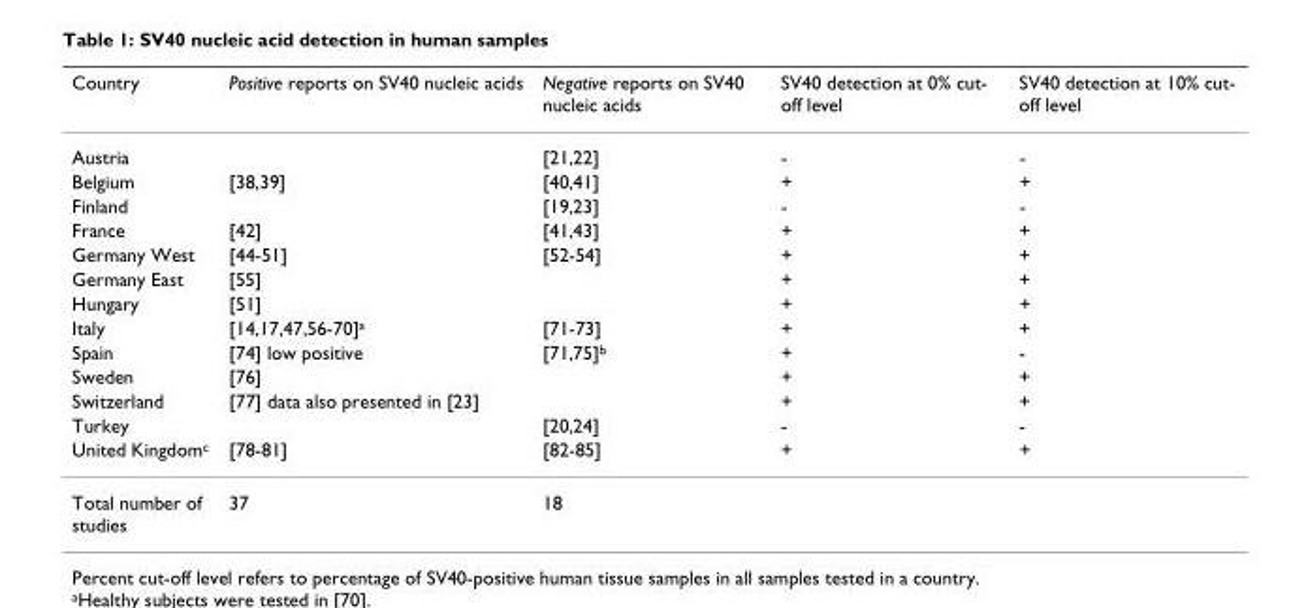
<table><thead><tr><td>Country</td><td>Positive reports on SV40 nucleic acids</td><td>Negative reports on SV40 nucleic acids</td><td>SV40 detection at 0% cut- off level</td><td>SV40 detection at 10% cut- off level</td></tr></thead><tbody><tr><td>Austria</td><td></td><td>[21,22]</td><td>-</td><td>-</td></tr><tr><td>Belgium</td><td>[38,39]</td><td>[40,41]</td><td>+</td><td>+</td></tr><tr><td>Finland</td><td></td><td>[19,23]</td><td>-</td><td>-</td></tr><tr><td>France</td><td>[42]</td><td>[41,43]</td><td>+</td><td>+</td></tr><tr><td>Germany West</td><td>[44-51]</td><td>[52-54]</td><td>+</td><td>+</td></tr><tr><td>Germany East</td><td>[55]</td><td></td><td>+</td><td>+</td></tr><tr><td>Hungary</td><td>[51]</td><td></td><td>+</td><td>+</td></tr><tr><td>Italy</td><td>[14,17,47,56-70]<sup>a</sup></td><td>[71-73]</td><td>+</td><td>+</td></tr><tr><td>Spain</td><td>[74] low positive</td><td>[71,75]<sup>b</sup></td><td>+</td><td>-</td></tr><tr><td>Sweden</td><td>[76]</td><td></td><td>+</td><td>+</td></tr><tr><td>Switzerland</td><td>[77] data also presented in [23]</td><td></td><td>+</td><td>+</td></tr><tr><td>Turkey</td><td></td><td>[20,24]</td><td>-</td><td>-</td></tr><tr><td>United Kingdom<sup>c</sup></td><td>[78-81]</td><td>[82-85]</td><td>+</td><td>+</td></tr><tr><td>Total number of studies</td><td>37</td><td>18</td><td></td><td></td></tr></tbody></table>